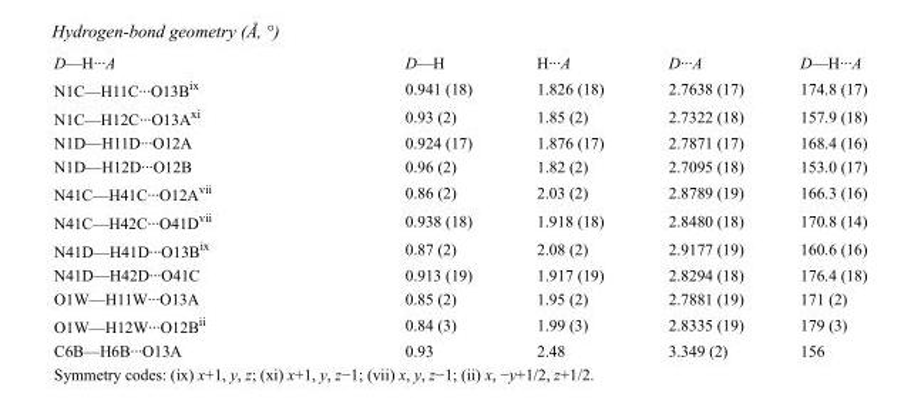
<table><tbody><tr><td>D—H···A</td><td>D—H</td><td>H···A</td><td>D···A</td><td>D—H···A</td></tr><tr><td>N1C—H11C···O13B<sup>ix</sup></td><td>0.941 (18)</td><td>1.826 (18)</td><td>2.7638 (17)</td><td>174.8 (17)</td></tr><tr><td>N1C—H12C···O13A<sup>xi</sup></td><td>0.93 (2)</td><td>1.85 (2)</td><td>2.7322 (18)</td><td>157.9 (18)</td></tr><tr><td>N1D—H11D···O12A</td><td>0.924 (17)</td><td>1.876 (17)</td><td>2.7871 (17)</td><td>168.4 (16)</td></tr><tr><td>N1D—H12D···O12B</td><td>0.96 (2)</td><td>1.82 (2)</td><td>2.7095 (18)</td><td>153.0 (17)</td></tr><tr><td>N41C—H41C···O12A<sup>vii</sup></td><td>0.86 (2)</td><td>2.03 (2)</td><td>2.8789 (19)</td><td>166.3 (16)</td></tr><tr><td>N41C—H42C···O41D<sup>vii</sup></td><td>0.938 (18)</td><td>1.918 (18)</td><td>2.8480 (18)</td><td>170.8 (14)</td></tr><tr><td>N41D—H41D···O13B<sup>ix</sup></td><td>0.87 (2)</td><td>2.08 (2)</td><td>2.9177 (19)</td><td>160.6 (16)</td></tr><tr><td>N41D—H42D···O41C</td><td>0.913 (19)</td><td>1.917 (19)</td><td>2.8294 (18)</td><td>176.4 (18)</td></tr><tr><td>O1W—H11W···O13A</td><td>0.85 (2)</td><td>1.95 (2)</td><td>2.7881 (19)</td><td>171 (2)</td></tr><tr><td>O1W—H12W···O12B<sup>ii</sup></td><td>0.84 (3)</td><td>1.99 (3)</td><td>2.8335 (19)</td><td>179 (3)</td></tr><tr><td>C6B—H6B···O13A</td><td>0.93</td><td>2.48</td><td>3.349 (2)</td><td>156</td></tr></tbody></table>